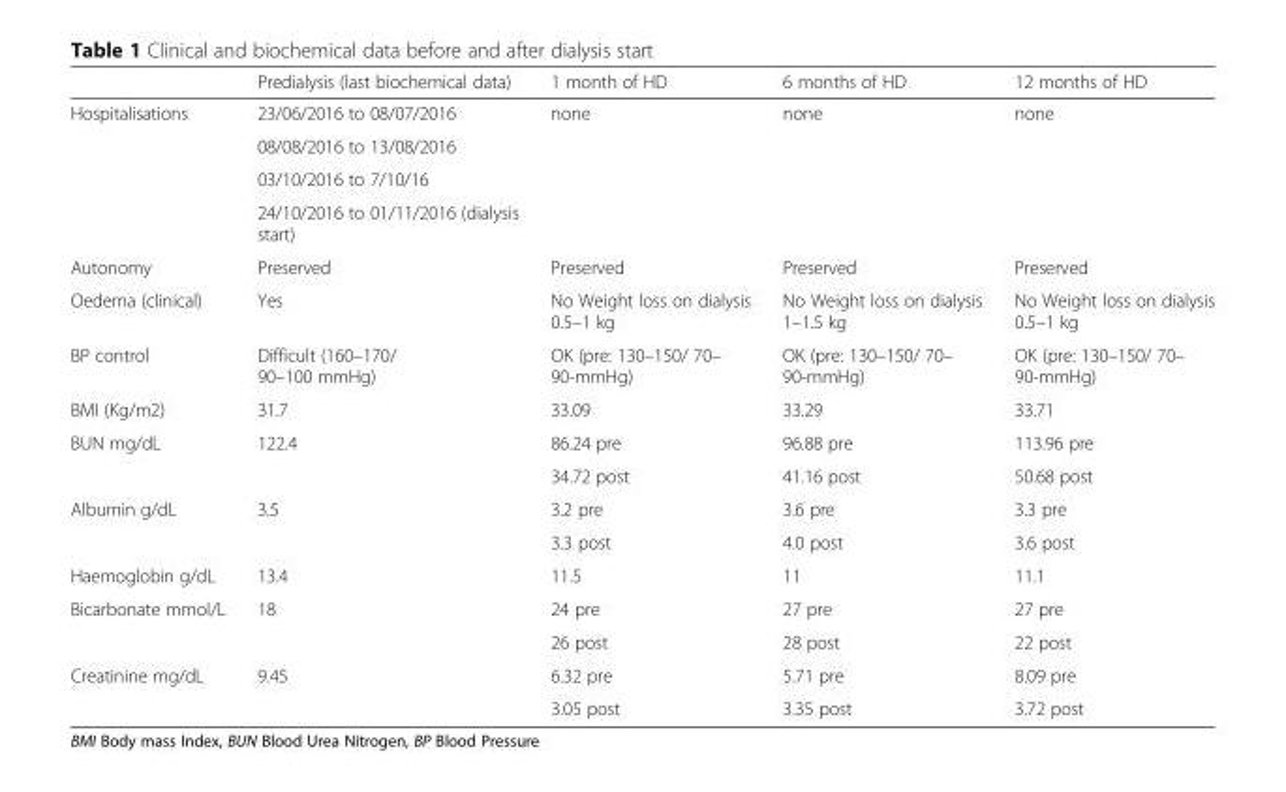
<table><thead><tr><td></td><td>Predialysis (last biochemical data)</td><td>1 month of HD</td><td>6 months of HD</td><td>12 months of HD</td></tr></thead><tbody><tr><td rowspan="4">Hospitalisations</td><td>23/06/2016 to 08/07/2016</td><td rowspan="4">none</td><td rowspan="4">none</td><td rowspan="4">none</td></tr><tr><td>08/08/2016 to 13/08/2016</td></tr><tr><td>03/10/2016 to 7/10/16</td></tr><tr><td>24/10/2016 to 01/11/2016 (dialysis start)</td></tr><tr><td>Autonomy</td><td>Preserved</td><td>Preserved</td><td>Preserved</td><td>Preserved</td></tr><tr><td>Oedema (clinical)</td><td>Yes</td><td>No Weight loss on dialysis 0.5–1 kg</td><td>No Weight loss on dialysis 1–1.5 kg</td><td>No Weight loss on dialysis 0.5–1 kg</td></tr><tr><td>BP control</td><td>Difficult (160–170/ 90–100 mmHg)</td><td>OK (pre: 130–150/ 70– 90-mmHg)</td><td>OK (pre: 130–150/ 70– 90-mmHg)</td><td>OK (pre: 130–150/ 70– 90-mmHg)</td></tr><tr><td>BMI (Kg/m2)</td><td>31.7</td><td>33.09</td><td>33.29</td><td>33.71</td></tr><tr><td rowspan="2">BUN mg/dL</td><td rowspan="2">122.4</td><td>86.24 pre</td><td>96.88 pre</td><td>113.96 pre</td></tr><tr><td>34.72 post</td><td>41.16 post</td><td>50.68 post</td></tr><tr><td rowspan="2">Albumin g/dL</td><td rowspan="2">3.5</td><td>3.2 pre</td><td>3.6 pre</td><td>3.3 pre</td></tr><tr><td>3.3 post</td><td>4.0 post</td><td>3.6 post</td></tr><tr><td>Haemoglobin g/dL</td><td>13.4</td><td>11.5</td><td>11</td><td>11.1</td></tr><tr><td rowspan="2">Bicarbonate mmol/L</td><td rowspan="2">18</td><td>24 pre</td><td>27 pre</td><td>27 pre</td></tr><tr><td>26 post</td><td>28 post</td><td>22 post</td></tr><tr><td rowspan="2">Creatinine mg/dL</td><td rowspan="2">9.45</td><td>6.32 pre</td><td>5.71 pre</td><td>8.09 pre</td></tr><tr><td>3.05 post</td><td>3.35 post</td><td>3.72 post</td></tr></tbody></table>